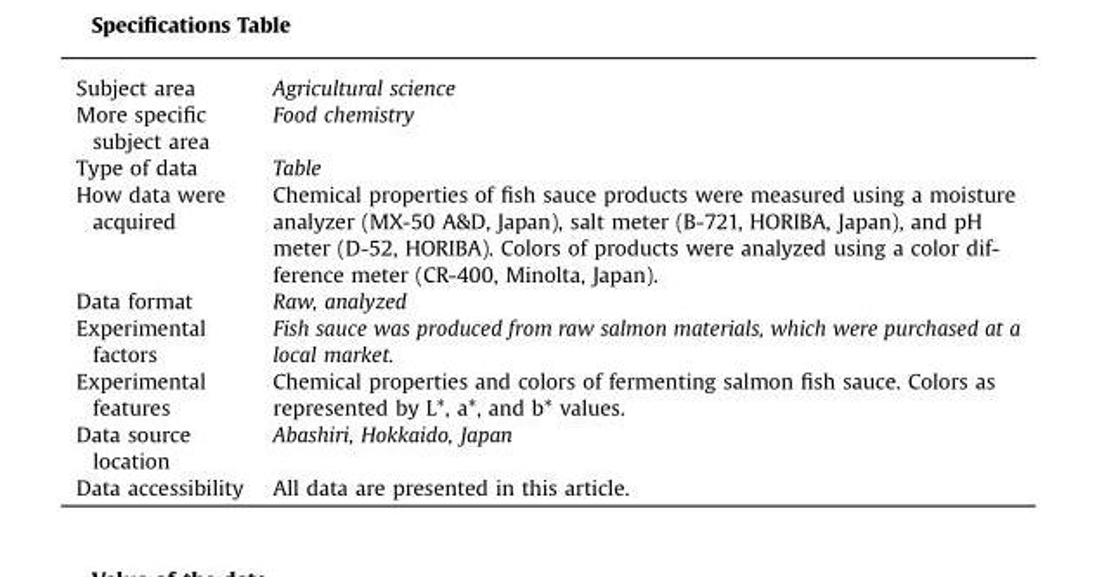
<table><tbody><tr><td>Subject area</td><td>Agricultural science</td></tr><tr><td>More specific subject area</td><td>Food chemistry</td></tr><tr><td>Type of data</td><td>Table</td></tr><tr><td>How data were acquired</td><td>Chemical properties of fish sauce products were measured using a moisture analyzer (MX-50 A&amp;D, Japan), salt meter (B-721, HORIBA, Japan), and pH meter (D-52, HORIBA). Colors of products were analyzed using a color dif- ference meter (CR-400, Minolta, Japan).</td></tr><tr><td>Data format</td><td>Raw, analyzed</td></tr><tr><td>Experimental factors</td><td>Fish sauce was produced from raw salmon materials, which were purchased at a local market.</td></tr><tr><td>Experimental features</td><td>Chemical properties and colors of fermenting salmon fish sauce. Colors as represented by L*, a*, and b* values.</td></tr><tr><td>Data source location</td><td>Abashiri, Hokkaido, Japan</td></tr><tr><td>Data accessibility</td><td>All data are presented in this article.</td></tr></tbody></table>